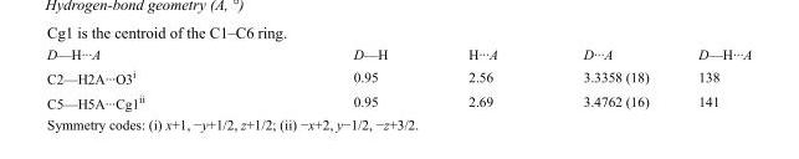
<table><tbody><tr><td>D—H···A</td><td>D—H</td><td>H···A</td><td>D···A</td><td>D—H···A</td></tr><tr><td>C2—H2A···O3<sup>i</sup></td><td>0.95</td><td>2.56</td><td>3.3358 (18)</td><td>138</td></tr><tr><td>C5—H5A···Cg1<sup>ii</sup></td><td>0.95</td><td>2.69</td><td>3.4762 (16)</td><td>141</td></tr></tbody></table>